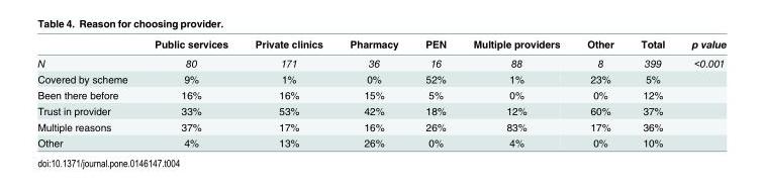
<table><thead><tr><td></td><td>Public services</td><td>Private clinics</td><td>Pharmacy</td><td>PEN</td><td>Multiple providers</td><td>Other</td><td>Total</td><td>p value</td></tr></thead><tbody><tr><td>N</td><td>80</td><td>171</td><td>36</td><td>16</td><td>88</td><td>8</td><td>399</td><td>&lt;0.001</td></tr><tr><td>Covered by scheme</td><td>9%</td><td>1%</td><td>0%</td><td>52%</td><td>1%</td><td>23%</td><td>5%</td><td></td></tr><tr><td>Been there before</td><td>16%</td><td>16%</td><td>15%</td><td>5%</td><td>0%</td><td>0%</td><td>12%</td><td></td></tr><tr><td>Trust in provider</td><td>33%</td><td>53%</td><td>42%</td><td>18%</td><td>12%</td><td>60%</td><td>37%</td><td></td></tr><tr><td>Multiple reasons</td><td>37%</td><td>17%</td><td>16%</td><td>26%</td><td>83%</td><td>17%</td><td>36%</td><td></td></tr><tr><td>Other</td><td>4%</td><td>13%</td><td>26%</td><td>0%</td><td>4%</td><td>0%</td><td>10%</td><td></td></tr></tbody></table>